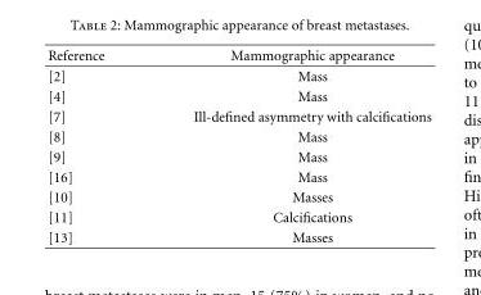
<table><thead><tr><td>Reference</td><td>Mammographic appearance</td></tr></thead><tbody><tr><td>[2]</td><td>Mass</td></tr><tr><td>[4]</td><td>Mass</td></tr><tr><td>[7]</td><td>Ill-defined asymmetry with calcifications</td></tr><tr><td>[8]</td><td>Mass</td></tr><tr><td>[9]</td><td>Mass</td></tr><tr><td>[16]</td><td>Mass</td></tr><tr><td>[10]</td><td>Masses</td></tr><tr><td>[11]</td><td>Calcifications</td></tr><tr><td>[13]</td><td>Masses</td></tr></tbody></table>